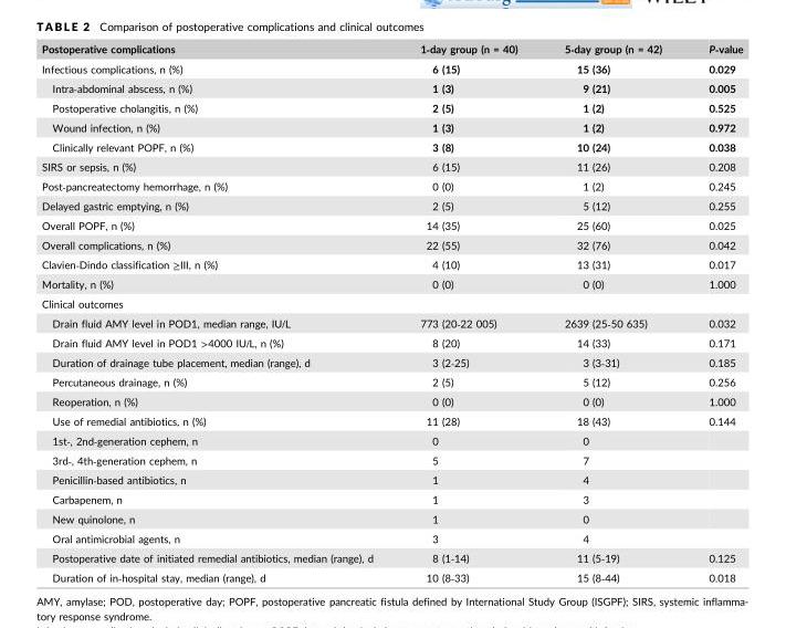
<table><thead><tr><td>Postoperative complications</td><td>1‐day group (n = 40)</td><td>5‐day group (n = 42)</td><td>P‐value</td></tr></thead><tbody><tr><td>Infectious complications, n (%)</td><td>6 (15)</td><td>15 (36)</td><td>0.029</td></tr><tr><td>Intra‐abdominal abscess, n (%)</td><td>1 (3)</td><td>9 (21)</td><td>0.005</td></tr><tr><td>Postoperative cholangitis, n (%)</td><td>2 (5)</td><td>1 (2)</td><td>0.525</td></tr><tr><td>Wound infection, n (%)</td><td>1 (3)</td><td>1 (2)</td><td>0.972</td></tr><tr><td>Clinically relevant POPF, n (%)</td><td>3 (8)</td><td>10 (24)</td><td>0.038</td></tr><tr><td>SIRS or sepsis, n (%)</td><td>6 (15)</td><td>11 (26)</td><td>0.208</td></tr><tr><td>Post‐pancreatectomy hemorrhage, n (%)</td><td>0 (0)</td><td>1 (2)</td><td>0.245</td></tr><tr><td>Delayed gastric emptying, n (%)</td><td>2 (5)</td><td>5 (12)</td><td>0.255</td></tr><tr><td>Overall POPF, n (%)</td><td>14 (35)</td><td>25 (60)</td><td>0.025</td></tr><tr><td>Overall complications, n (%)</td><td>22 (55)</td><td>32 (76)</td><td>0.042</td></tr><tr><td>Clavien‐Dindo classification ≥III, n (%)</td><td>4 (10)</td><td>13 (31)</td><td>0.017</td></tr><tr><td>Mortality, n (%)</td><td>0 (0)</td><td>0 (0)</td><td>1.000</td></tr><tr><td colspan="4">Clinical outcomes</td></tr><tr><td>Drain fluid AMY level in POD1, median range, IU/L</td><td>773 (20‐22 005)</td><td>2639 (25‐50 635)</td><td>0.032</td></tr><tr><td>Drain fluid AMY level in POD1 &gt;4000 IU/L, n (%)</td><td>8 (20)</td><td>14 (33)</td><td>0.171</td></tr><tr><td>Duration of drainage tube placement, median (range), d</td><td>3 (2‐25)</td><td>3 (3‐31)</td><td>0.185</td></tr><tr><td>Percutaneous drainage, n (%)</td><td>2 (5)</td><td>5 (12)</td><td>0.256</td></tr><tr><td>Reoperation, n (%)</td><td>0 (0)</td><td>0 (0)</td><td>1.000</td></tr><tr><td>Use of remedial antibiotics, n (%)</td><td>11 (28)</td><td>18 (43)</td><td>0.144</td></tr><tr><td>1st‐, 2nd‐generation cephem, n</td><td>0</td><td>0</td><td></td></tr><tr><td>3rd‐, 4th‐generation cephem, n</td><td>5</td><td>7</td><td></td></tr><tr><td>Penicillin‐based antibiotics, n</td><td>1</td><td>4</td><td></td></tr><tr><td>Carbapenem, n</td><td>1</td><td>3</td><td></td></tr><tr><td>New quinolone, n</td><td>1</td><td>0</td><td></td></tr><tr><td>Oral antimicrobial agents, n</td><td>3</td><td>4</td><td></td></tr><tr><td>Postoperative date of initiated remedial antibiotics, median (range), d</td><td>8 (1‐14)</td><td>11 (5‐19)</td><td>0.125</td></tr><tr><td>Duration of in‐hospital stay, median (range), d</td><td>10 (8‐33)</td><td>15 (8‐44)</td><td>0.018</td></tr></tbody></table>